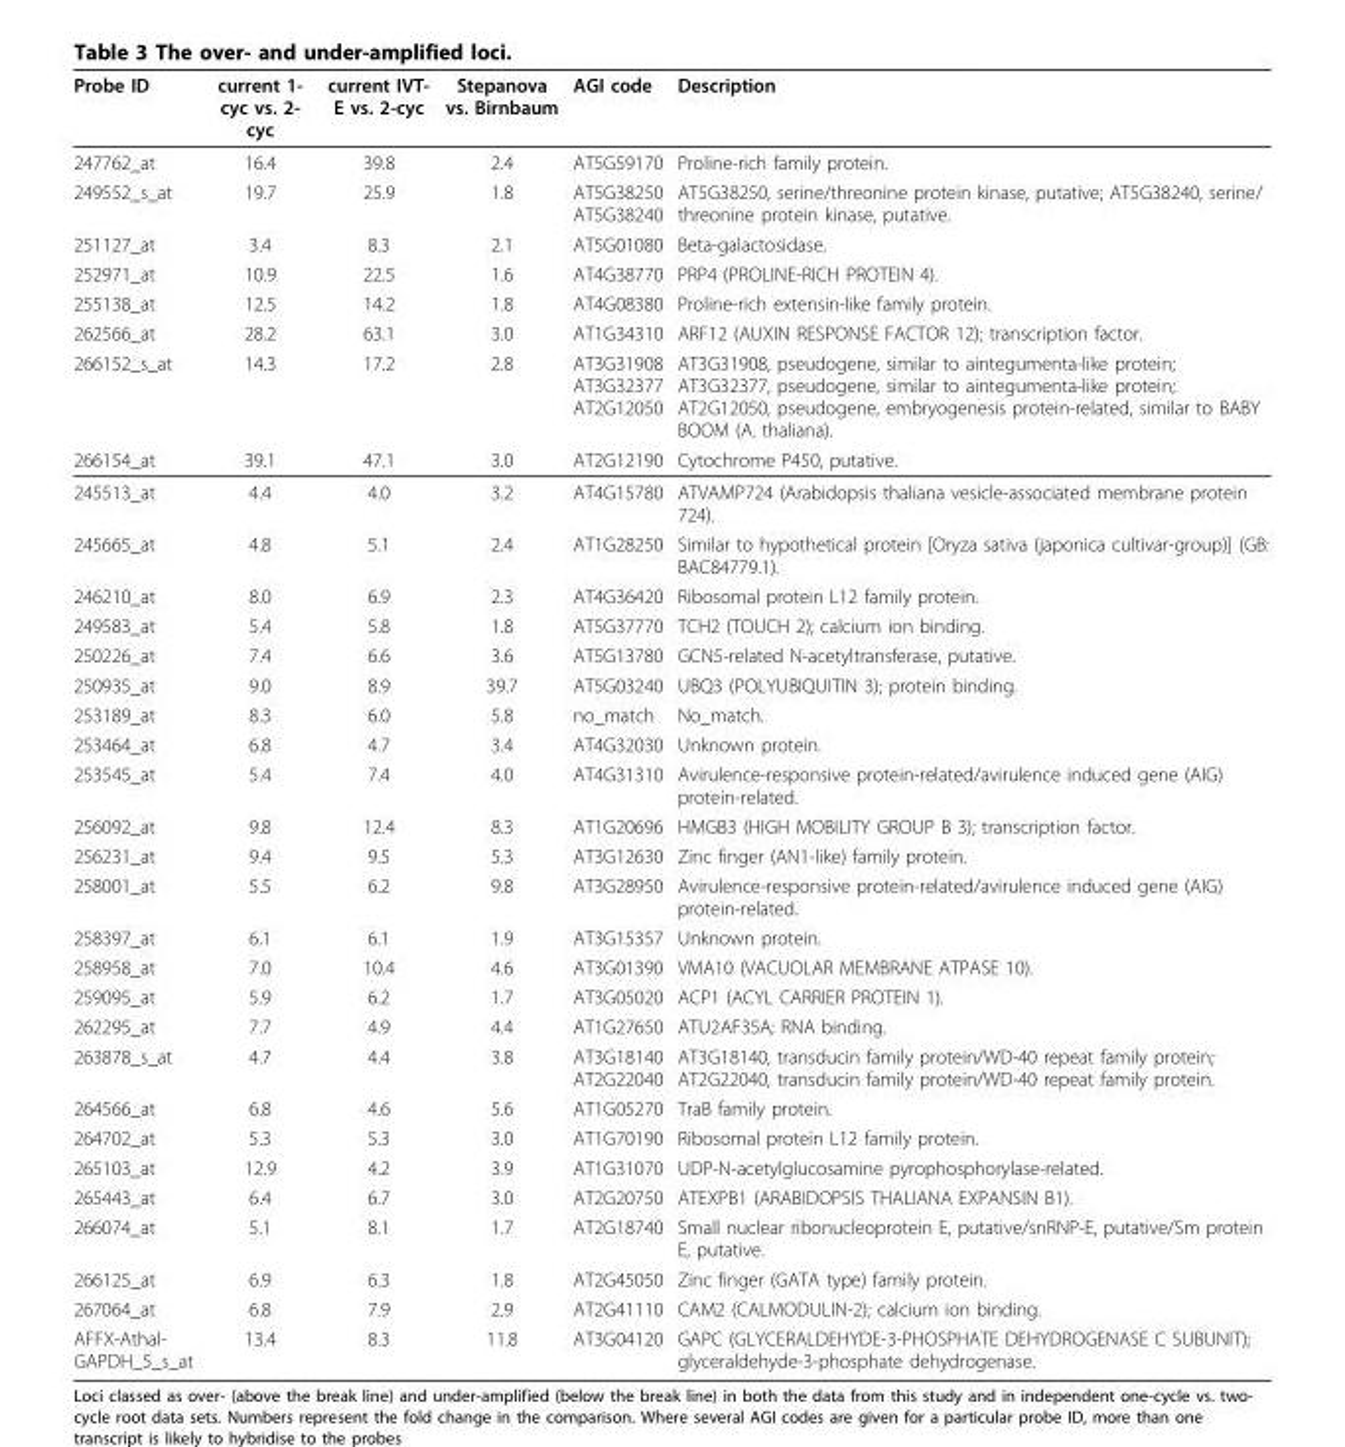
<table><thead><tr><td>Probe ID</td><td>current 1- cyc vs. 2- cyc</td><td>current IVT- E vs. 2-cyc</td><td>Stepanova vs. Birnbaum</td><td>AGI code</td><td>Description</td></tr></thead><tbody><tr><td>247762_at</td><td>16.4</td><td>39.8</td><td>2.4</td><td>AT5G59170</td><td>Proline-rich family protein.</td></tr><tr><td>249552_s_at</td><td>19.7</td><td>25.9</td><td>1.8</td><td>AT5G38250 AT5G38240</td><td>AT5G38250, serine/threonine protein kinase, putative; AT5G38240, serine/ threonine protein kinase, putative.</td></tr><tr><td>251127_at</td><td>3.4</td><td>8.3</td><td>2.1</td><td>AT5G01080</td><td>Beta-galactosidase.</td></tr><tr><td>252971_at</td><td>10.9</td><td>22.5</td><td>1.6</td><td>AT4G38770</td><td>PRP4 (PROLINE-RICH PROTEIN 4).</td></tr><tr><td>255138_at</td><td>12.5</td><td>14.2</td><td>1.8</td><td>AT4G08380</td><td>Proline-rich extensin-like family protein.</td></tr><tr><td>262566_at</td><td>28.2</td><td>63.1</td><td>3.0</td><td>AT1G34310</td><td>ARF12 (AUXIN RESPONSE FACTOR 12); transcription factor.</td></tr><tr><td>266152_s_at</td><td>14.3</td><td>17.2</td><td>2.8</td><td>AT3G31908 AT3G32377 AT2G12050</td><td>AT3G31908, pseudogene, similar to aintegumenta-like protein; AT3G32377, pseudogene, similar to aintegumenta-like protein; AT2G12050, pseudogene, embryogenesis protein-related, similar to BABY BOOM (A. thaliana).</td></tr><tr><td>266154_at</td><td>39.1</td><td>47.1</td><td>3.0</td><td>AT2G12190</td><td>Cytochrome P450, putative.</td></tr><tr><td>245513_at</td><td>4.4</td><td>4.0</td><td>3.2</td><td>AT4G15780</td><td>ATVAMP724 (Arabidopsis thaliana vesicle-associated membrane protein 724).</td></tr><tr><td>245665_at</td><td>4.8</td><td>5.1</td><td>2.4</td><td>AT1G28250</td><td>Similar to hypothetical protein [Oryza sativa (japonica cultivar-group)] (GB: BAC84779.1).</td></tr><tr><td>246210_at</td><td>8.0</td><td>6.9</td><td>2.3</td><td>AT4G36420</td><td>Ribosomal protein L12 family protein.</td></tr><tr><td>249583_at</td><td>5.4</td><td>5.8</td><td>1.8</td><td>AT5G37770</td><td>TCH2 (TOUCH 2); calcium ion binding.</td></tr><tr><td>250226_at</td><td>7.4</td><td>6.6</td><td>3.6</td><td>AT5G13780</td><td>GCN5-related N-acetyltransferase, putative.</td></tr><tr><td>250935_at</td><td>9.0</td><td>8.9</td><td>39.7</td><td>AT5G03240</td><td>UBQ3 (POLYUBIQUITIN 3); protein binding.</td></tr><tr><td>253189_at</td><td>8.3</td><td>6.0</td><td>5.8</td><td>no_match</td><td>No_match.</td></tr><tr><td>253464_at</td><td>6.8</td><td>4.7</td><td>3.4</td><td>AT4G32030</td><td>Unknown protein.</td></tr><tr><td>253545_at</td><td>5.4</td><td>7.4</td><td>4.0</td><td>AT4G31310</td><td>Avirulence-responsive protein-related/avirulence induced gene (AIG) protein-related.</td></tr><tr><td>256092_at</td><td>9.8</td><td>12.4</td><td>8.3</td><td>AT1G20696</td><td>HMGB3 (HIGH MOBILITY GROUP B 3); transcription factor.</td></tr><tr><td>256231_at</td><td>9.4</td><td>9.5</td><td>5.3</td><td>AT3G12630</td><td>Zinc finger (AN1-like) family protein.</td></tr><tr><td>258001_at</td><td>5.5</td><td>6.2</td><td>9.8</td><td>AT3G28950</td><td>Avirulence-responsive protein-related/avirulence induced gene (AIG) protein-related.</td></tr><tr><td>258397_at</td><td>6.1</td><td>6.1</td><td>1.9</td><td>AT3G15357</td><td>Unknown protein.</td></tr><tr><td>258958_at</td><td>7.0</td><td>10.4</td><td>4.6</td><td>AT3G01390</td><td>VMA10 (VACUOLAR MEMBRANE ATPASE 10).</td></tr><tr><td>259095_at</td><td>5.9</td><td>6.2</td><td>1.7</td><td>AT3G05020</td><td>ACP1 (ACYL CARRIER PROTEIN 1).</td></tr><tr><td>262295_at</td><td>7.7</td><td>4.9</td><td>4.4</td><td>AT1G27650</td><td>ATU2AF35A; RNA binding.</td></tr><tr><td>263878_s_at</td><td>4.7</td><td>4.4</td><td>3.8</td><td>AT3G18140 AT2G22040</td><td>AT3G18140, transducin family protein/WD-40 repeat family protein; AT2G22040, transducin family protein/WD-40 repeat family protein.</td></tr><tr><td>264566_at</td><td>6.8</td><td>4.6</td><td>5.6</td><td>AT1G05270</td><td>TraB family protein.</td></tr><tr><td>264702_at</td><td>5.3</td><td>5.3</td><td>3.0</td><td>AT1G70190</td><td>Ribosomal protein L12 family protein.</td></tr><tr><td>265103_at</td><td>12.9</td><td>4.2</td><td>3.9</td><td>AT1G31070</td><td>UDP-N-acetylglucosamine pyrophosphorylase-related.</td></tr><tr><td>265443_at</td><td>6.4</td><td>6.7</td><td>3.0</td><td>AT2G20750</td><td>ATEXPB1 (ARABIDOPSIS THALIANA EXPANSIN B1).</td></tr><tr><td>266074_at</td><td>5.1</td><td>8.1</td><td>1.7</td><td>AT2G18740</td><td>Small nuclear ribonucleoprotein E, putative/snRNP-E, putative/Sm protein E, putative.</td></tr><tr><td>266125_at</td><td>6.9</td><td>6.3</td><td>1.8</td><td>AT2G45050</td><td>Zinc finger (GATA type) family protein.</td></tr><tr><td>267064_at</td><td>6.8</td><td>7.9</td><td>2.9</td><td>AT2G41110</td><td>CAM2 (CALMODULIN-2); calcium ion binding.</td></tr><tr><td>AFFX-Athal- GAPDH_5_s_at</td><td>13.4</td><td>8.3</td><td>11.8</td><td>AT3G04120</td><td>GAPC (GLYCERALDEHYDE-3-PHOSPHATE DEHYDROGENASE C SUBUNIT); glyceraldehyde-3-phosphate dehydrogenase.</td></tr></tbody></table>